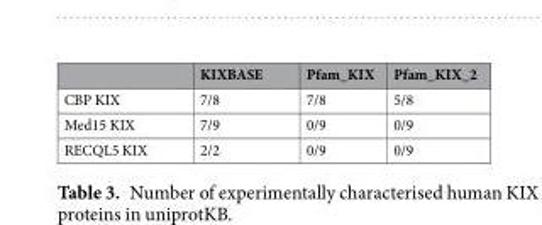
<table><thead><tr><td></td><td>KIXBASE</td><td>Pfam_KIX</td><td>Pfam_KIX_2</td></tr></thead><tbody><tr><td>CBP KIX</td><td>7/8</td><td>7/8</td><td>5/8</td></tr><tr><td>Med15 KIX</td><td>7/9</td><td>0/9</td><td>0/9</td></tr><tr><td>RECQL5 KIX</td><td>2/2</td><td>0/9</td><td>0/9</td></tr></tbody></table>